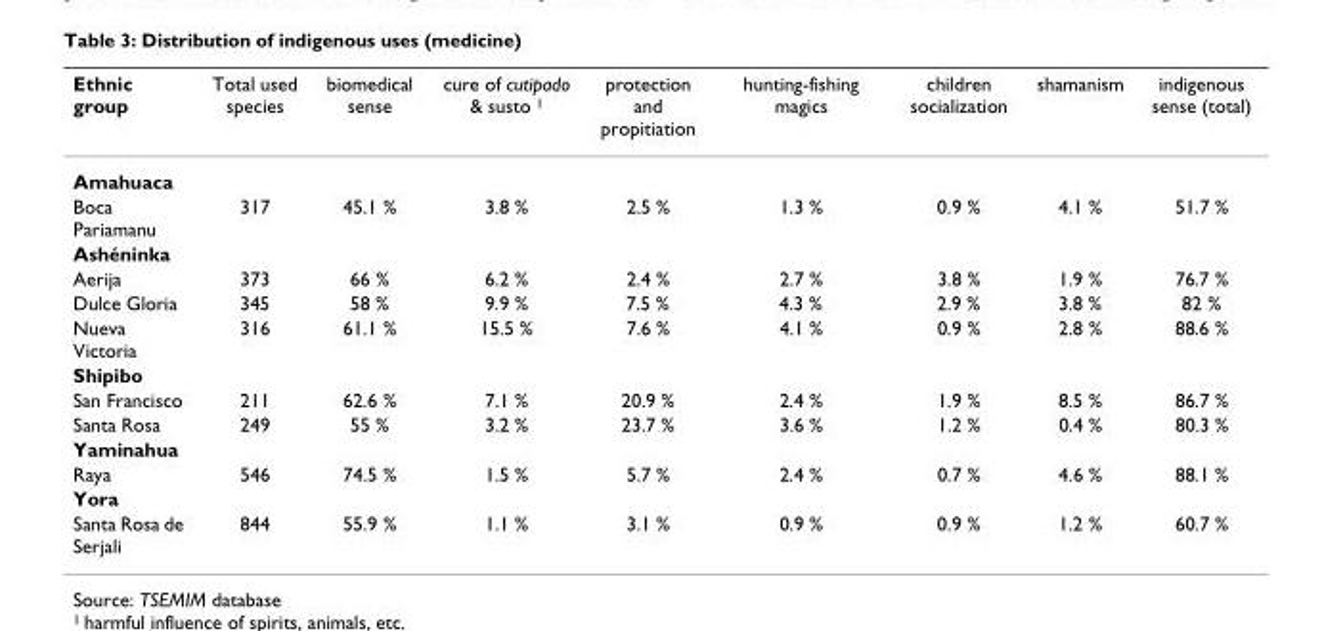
<table><thead><tr><td>Ethnic group</td><td>Total used species</td><td>biomedical sense</td><td>cure of cutipado &amp; susto <sup>1</sup></td><td>protection and propitiation</td><td>hunting-fishing magics</td><td>children socialization</td><td>shamanism</td><td>indigenous sense (total)</td></tr></thead><tbody><tr><td colspan="9">Amahuaca</td></tr><tr><td>Boca Pariamanu</td><td>317</td><td>45.1 %</td><td>3.8 %</td><td>2.5 %</td><td>1.3 %</td><td>0.9 %</td><td>4.1 %</td><td>51.7 %</td></tr><tr><td colspan="9">Ashéninka</td></tr><tr><td>Aerija</td><td>373</td><td>66 %</td><td>6.2 %</td><td>2.4 %</td><td>2.7 %</td><td>3.8 %</td><td>1.9 %</td><td>76.7 %</td></tr><tr><td>Dulce Gloria</td><td>345</td><td>58 %</td><td>9.9 %</td><td>7.5 %</td><td>4.3 %</td><td>2.9 %</td><td>3.8 %</td><td>82 %</td></tr><tr><td>Nueva Victoria</td><td>316</td><td>61.1 %</td><td>15.5 %</td><td>7.6 %</td><td>4.1 %</td><td>0.9 %</td><td>2.8 %</td><td>88.6 %</td></tr><tr><td colspan="9">Shipibo</td></tr><tr><td>San Francisco</td><td>211</td><td>62.6 %</td><td>7.1 %</td><td>20.9 %</td><td>2.4 %</td><td>1.9 %</td><td>8.5 %</td><td>86.7 %</td></tr><tr><td>Santa Rosa</td><td>249</td><td>55 %</td><td>3.2 %</td><td>23.7 %</td><td>3.6 %</td><td>1.2 %</td><td>0.4 %</td><td>80.3 %</td></tr><tr><td colspan="9">Yaminahua</td></tr><tr><td>Raya</td><td>546</td><td>74.5 %</td><td>1.5 %</td><td>5.7 %</td><td>2.4 %</td><td>0.7 %</td><td>4.6 %</td><td>88.1 %</td></tr><tr><td colspan="9">Yora</td></tr><tr><td>Santa Rosa de Serjali</td><td>844</td><td>55.9 %</td><td>1.1 %</td><td>3.1 %</td><td>0.9 %</td><td>0.9 %</td><td>1.2 %</td><td>60.7 %</td></tr></tbody></table>